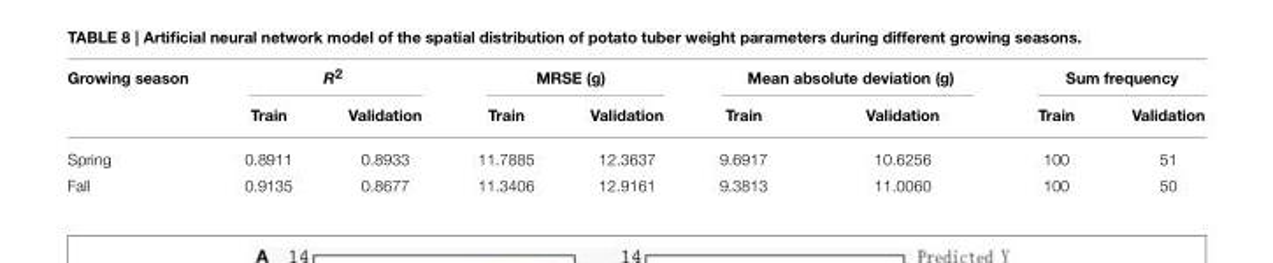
<table><thead><tr><td rowspan="2">Growing season</td><td colspan="2">R<sup>2</sup></td><td colspan="2">MRSE (g)</td><td colspan="2">Mean absolute deviation (g)</td><td colspan="2">Sum frequency</td></tr><tr><td>Train</td><td>Validation</td><td>Train</td><td>Validation</td><td>Train</td><td>Validation</td><td>Train</td><td>Validation</td></tr></thead><tbody><tr><td>Spring</td><td>0.8911</td><td>0.8933</td><td>11.7885</td><td>12.3637</td><td>9.6917</td><td>10.6256</td><td>100</td><td>51</td></tr><tr><td>Fall</td><td>0.9135</td><td>0.8677</td><td>11.3406</td><td>12.9161</td><td>9.3813</td><td>11.0060</td><td>100</td><td>50</td></tr></tbody></table>